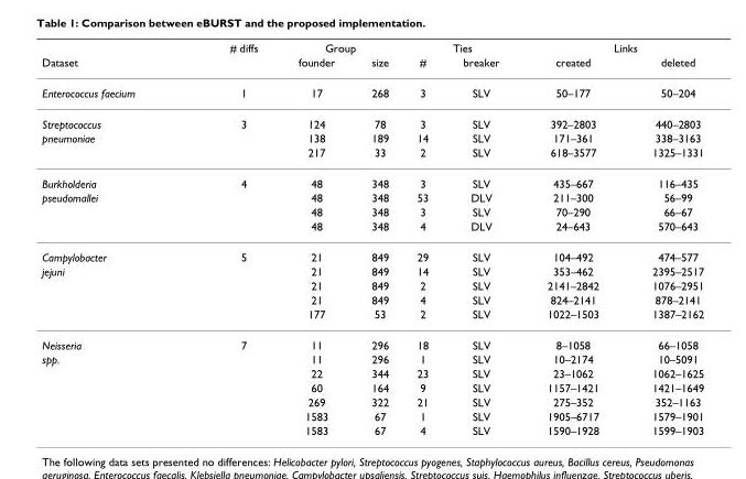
<table><thead><tr><td rowspan="2">Dataset</td><td rowspan="2"># diffs</td><td colspan="2">Group</td><td colspan="2">Ties</td><td colspan="2">Links</td></tr><tr><td>founder</td><td>size</td><td>#</td><td>breaker</td><td>created</td><td>deleted</td></tr></thead><tbody><tr><td>Enterococcus faecium</td><td>1</td><td>17</td><td>268</td><td>3</td><td>SLV</td><td>50–177</td><td>50–204</td></tr><tr><td>Streptococcus</td><td>3</td><td>124</td><td>78</td><td>3</td><td>SLV</td><td>392–2803</td><td>440–2803</td></tr><tr><td rowspan="2">pneumoniae</td><td></td><td>138</td><td>189</td><td>14</td><td>SLV</td><td>171–361</td><td>338–3163</td></tr><tr><td></td><td>217</td><td>33</td><td>2</td><td>SLV</td><td>618–3577</td><td>1325–1331</td></tr><tr><td>Burkholderia</td><td>4</td><td>48</td><td>348</td><td>3</td><td>SLV</td><td>435–667</td><td>116–435</td></tr><tr><td rowspan="3">pseudomallei</td><td></td><td>48</td><td>348</td><td>53</td><td>DLV</td><td>211–300</td><td>56–99</td></tr><tr><td></td><td>48</td><td>348</td><td>3</td><td>SLV</td><td>70–290</td><td>66–67</td></tr><tr><td></td><td>48</td><td>348</td><td>4</td><td>DLV</td><td>24–643</td><td>570–643</td></tr><tr><td>Campylobacter</td><td>5</td><td>21</td><td>849</td><td>29</td><td>SLV</td><td>104–492</td><td>474–577</td></tr><tr><td rowspan="4">jejuni</td><td></td><td>21</td><td>849</td><td>14</td><td>SLV</td><td>353–462</td><td>2395–2517</td></tr><tr><td></td><td>21</td><td>849</td><td>2</td><td>SLV</td><td>2141–2842</td><td>1076–2951</td></tr><tr><td></td><td>21</td><td>849</td><td>4</td><td>SLV</td><td>824–2141</td><td>878–2141</td></tr><tr><td></td><td>177</td><td>53</td><td>2</td><td>SLV</td><td>1022–1503</td><td>1387–2162</td></tr><tr><td>Neisseria</td><td>7</td><td>11</td><td>296</td><td>18</td><td>SLV</td><td>8–1058</td><td>66–1058</td></tr><tr><td rowspan="6">spp.</td><td></td><td>11</td><td>296</td><td>1</td><td>SLV</td><td>10–2174</td><td>10–5091</td></tr><tr><td></td><td>22</td><td>344</td><td>23</td><td>SLV</td><td>23–1062</td><td>1062–1625</td></tr><tr><td></td><td>60</td><td>164</td><td>9</td><td>SLV</td><td>1157–1421</td><td>1421–1649</td></tr><tr><td></td><td>269</td><td>322</td><td>21</td><td>SLV</td><td>275–352</td><td>352–1163</td></tr><tr><td></td><td>1583</td><td>67</td><td>1</td><td>SLV</td><td>1905–6717</td><td>1579–1901</td></tr><tr><td></td><td>1583</td><td>67</td><td>4</td><td>SLV</td><td>1590–1928</td><td>1599–1903</td></tr></tbody></table>